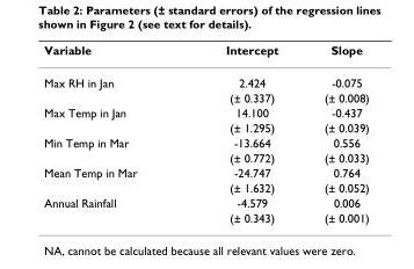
<table><thead><tr><td>Variable</td><td>Intercept</td><td>Slope</td></tr></thead><tbody><tr><td rowspan="2">Max RH in Jan</td><td>2.424</td><td>-0.075</td></tr><tr><td>(± 0.337)</td><td>(± 0.008)</td></tr><tr><td rowspan="2">Max Temp in Jan</td><td>14.100</td><td>-0.437</td></tr><tr><td>(± 1.295)</td><td>(± 0.039)</td></tr><tr><td rowspan="2">Min Temp in Mar</td><td>-13.664</td><td>0.556</td></tr><tr><td>(± 0.772)</td><td>(± 0.033)</td></tr><tr><td rowspan="2">Mean Temp in Mar</td><td>-24.747</td><td>0.764</td></tr><tr><td>(± 1.632)</td><td>(± 0.052)</td></tr><tr><td rowspan="2">Annual Rainfall</td><td>-4.579</td><td>0.006</td></tr><tr><td>(± 0.343)</td><td>(± 0.001)</td></tr></tbody></table>